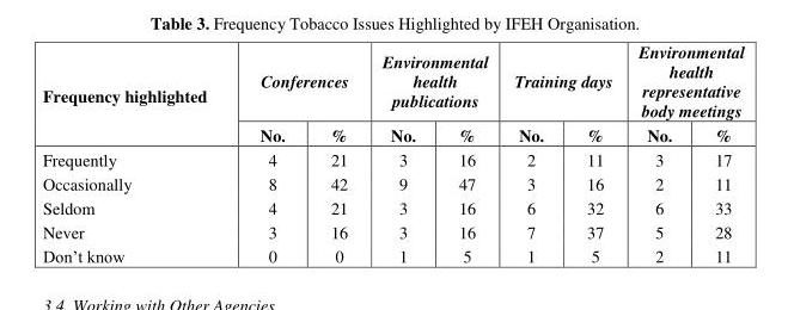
<table><thead><tr><td rowspan="2">Frequency highlighted</td><td colspan="2">Conferences</td><td colspan="2">Environmental health publications</td><td colspan="2">Training days</td><td colspan="2">Environmental health representative body meetings</td></tr><tr><td>No.</td><td>%</td><td>No.</td><td>%</td><td>No.</td><td>%</td><td>No.</td><td>%</td></tr></thead><tbody><tr><td>Frequently</td><td>4</td><td>21</td><td>3</td><td>16</td><td>2</td><td>11</td><td>3</td><td>17</td></tr><tr><td>Occasionally</td><td>8</td><td>42</td><td>9</td><td>47</td><td>3</td><td>16</td><td>2</td><td>11</td></tr><tr><td>Seldom</td><td>4</td><td>21</td><td>3</td><td>16</td><td>6</td><td>32</td><td>6</td><td>33</td></tr><tr><td>Never</td><td>3</td><td>16</td><td>3</td><td>16</td><td>7</td><td>37</td><td>5</td><td>28</td></tr><tr><td>Don‟t know</td><td>0</td><td>0</td><td>1</td><td>5</td><td>1</td><td>5</td><td>2</td><td>11</td></tr></tbody></table>